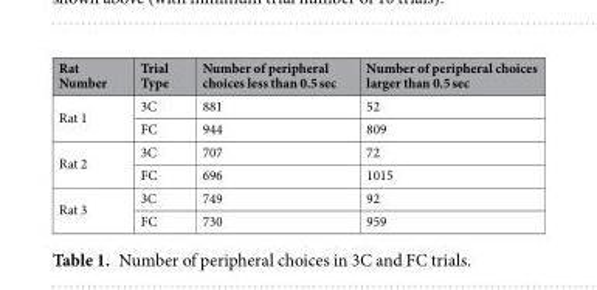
<table><thead><tr><td>Rat Number</td><td>Trial Type</td><td>Number of peripheral choices less than 0.5 sec</td><td>Number of peripheral choices larger than 0.5 sec</td></tr></thead><tbody><tr><td rowspan="2">Rat 1</td><td>3C</td><td>881</td><td>52</td></tr><tr><td>FC</td><td>944</td><td>809</td></tr><tr><td rowspan="2">Rat 2</td><td>3C</td><td>707</td><td>72</td></tr><tr><td>FC</td><td>696</td><td>1015</td></tr><tr><td rowspan="2">Rat 3</td><td>3C</td><td>749</td><td>92</td></tr><tr><td>FC</td><td>730</td><td>959</td></tr></tbody></table>